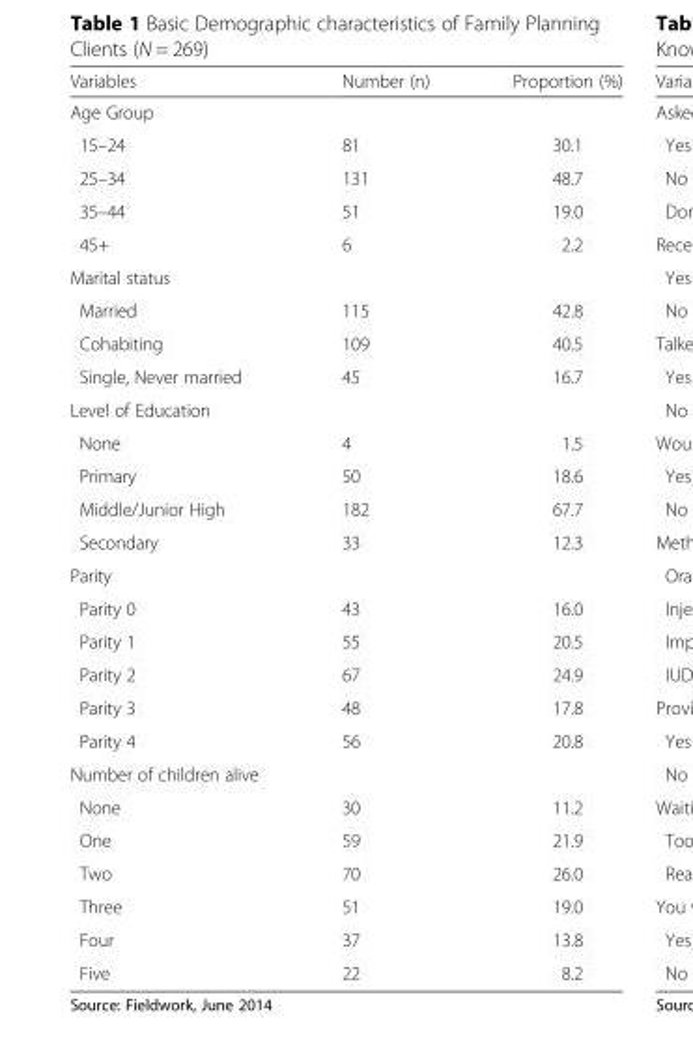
<table><thead><tr><td>Variables</td><td>Number (n)</td><td>Proportion (%)</td></tr></thead><tbody><tr><td colspan="3">Age Group</td></tr><tr><td>15–24</td><td>81</td><td>30.1</td></tr><tr><td>25–34</td><td>131</td><td>48.7</td></tr><tr><td>35–44</td><td>51</td><td>19.0</td></tr><tr><td>45+</td><td>6</td><td>2.2</td></tr><tr><td colspan="3">Marital status</td></tr><tr><td>Married</td><td>115</td><td>42.8</td></tr><tr><td>Cohabiting</td><td>109</td><td>40.5</td></tr><tr><td>Single, Never married</td><td>45</td><td>16.7</td></tr><tr><td colspan="3">Level of Education</td></tr><tr><td>None</td><td>4</td><td>1.5</td></tr><tr><td>Primary</td><td>50</td><td>18.6</td></tr><tr><td>Middle/Junior High</td><td>182</td><td>67.7</td></tr><tr><td>Secondary</td><td>33</td><td>12.3</td></tr><tr><td colspan="3">Parity</td></tr><tr><td>Parity 0</td><td>43</td><td>16.0</td></tr><tr><td>Parity 1</td><td>55</td><td>20.5</td></tr><tr><td>Parity 2</td><td>67</td><td>24.9</td></tr><tr><td>Parity 3</td><td>48</td><td>17.8</td></tr><tr><td>Parity 4</td><td>56</td><td>20.8</td></tr><tr><td colspan="3">Number of children alive</td></tr><tr><td>None</td><td>30</td><td>11.2</td></tr><tr><td>One</td><td>59</td><td>21.9</td></tr><tr><td>Two</td><td>70</td><td>26.0</td></tr><tr><td>Three</td><td>51</td><td>19.0</td></tr><tr><td>Four</td><td>37</td><td>13.8</td></tr><tr><td>Five</td><td>22</td><td>8.2</td></tr></tbody></table>